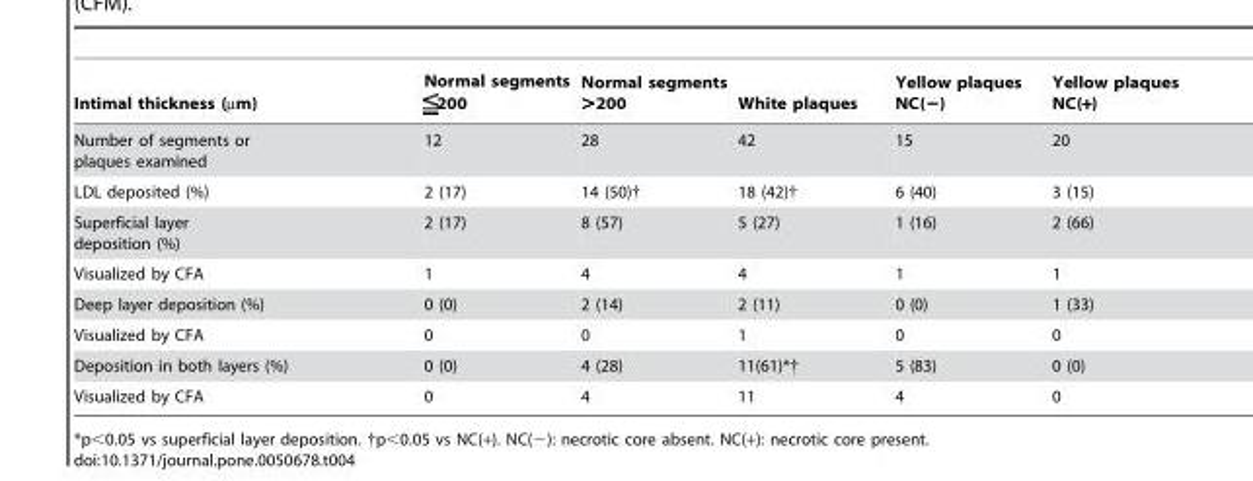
<table><thead><tr><td>Intimal thickness (µm)</td><td>Normal segments 200</td><td>Normal segments &gt;200</td><td>White plaques</td><td>Yellow plaques NC(−)</td><td>Yellow plaques NC(+)</td></tr></thead><tbody><tr><td>Number of segments or plaques examined</td><td>12</td><td>28</td><td>42</td><td>15</td><td>20</td></tr><tr><td>LDL deposited (%)</td><td>2 (17)</td><td>14 (50)†</td><td>18 (42)†</td><td>6 (40)</td><td>3 (15)</td></tr><tr><td>Superficial layer deposition (%)</td><td>2 (17)</td><td>8 (57)</td><td>5 (27)</td><td>1 (16)</td><td>2 (66)</td></tr><tr><td>Visualized by CFA</td><td>1</td><td>4</td><td>4</td><td>1</td><td>1</td></tr><tr><td>Deep layer deposition (%)</td><td>0 (0)</td><td>2 (14)</td><td>2 (11)</td><td>0 (0)</td><td>1 (33)</td></tr><tr><td>Visualized by CFA</td><td>0</td><td>0</td><td>1</td><td>0</td><td>0</td></tr><tr><td>Deposition in both layers (%)</td><td>0 (0)</td><td>4 (28)</td><td>11(61)*†</td><td>5 (83)</td><td>0 (0)</td></tr><tr><td>Visualized by CFA</td><td>0</td><td>4</td><td>11</td><td>4</td><td>0</td></tr></tbody></table>